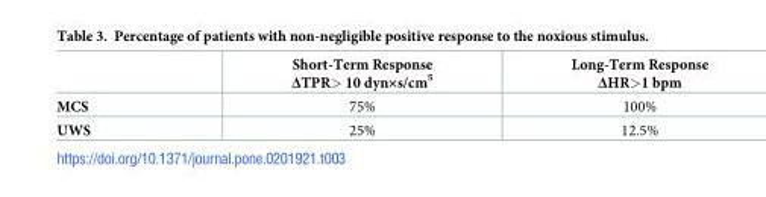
<table><thead><tr><td></td><td>Short-Term Response ΔTPR&gt; 10 dyn×s/cm<sup>5</sup></td><td>Long-Term Response ΔHR&gt;1 bpm</td></tr></thead><tbody><tr><td>MCS</td><td>75%</td><td>100%</td></tr><tr><td>UWS</td><td>25%</td><td>12.5%</td></tr></tbody></table>